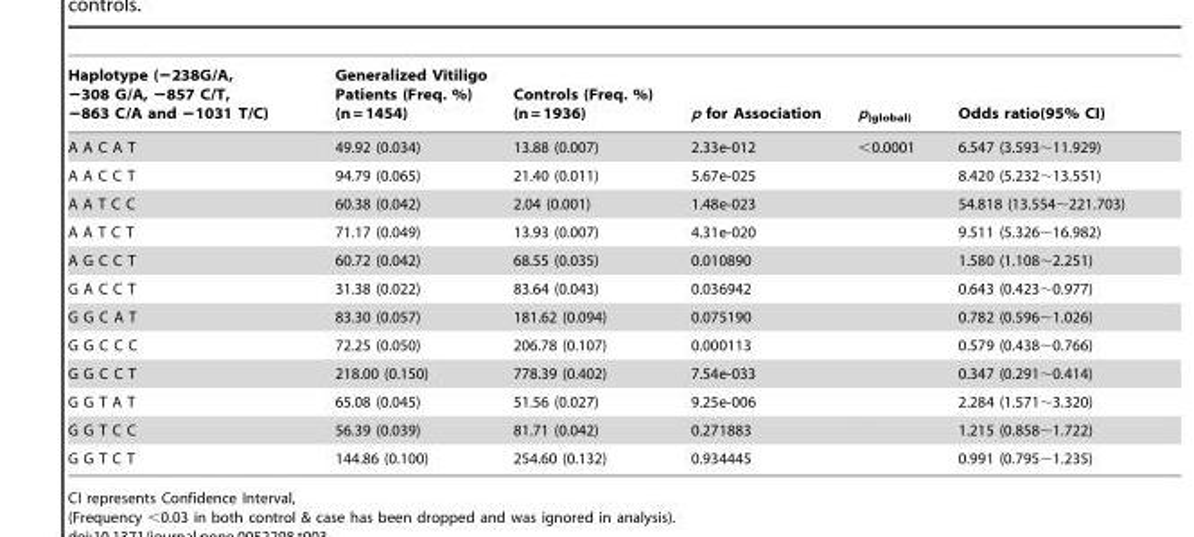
<table><thead><tr><td>Haplotype (−238G/A, −308 G/A, −857 C/T, −863 C/A and −1031 T/C)</td><td>Generalized Vitiligo Patients (Freq. %) (n = 1454)</td><td>Controls (Freq. %) (n = 1936)</td><td>p for Association</td><td>p<sub>(global)</sub></td><td>Odds ratio(95% CI)</td></tr></thead><tbody><tr><td>A A C A T</td><td>49.92 (0.034)</td><td>13.88 (0.007)</td><td>2.33e-012</td><td>&lt;0.0001</td><td>6.547 (3.593∼11.929)</td></tr><tr><td>A A C C T</td><td>94.79 (0.065)</td><td>21.40 (0.011)</td><td>5.67e-025</td><td></td><td>8.420 (5.232∼13.551)</td></tr><tr><td>A A T C C</td><td>60.38 (0.042)</td><td>2.04 (0.001)</td><td>1.48e-023</td><td></td><td>54.818 (13.554∼221.703)</td></tr><tr><td>A A T C T</td><td>71.17 (0.049)</td><td>13.93 (0.007)</td><td>4.31e-020</td><td></td><td>9.511 (5.326∼16.982)</td></tr><tr><td>A G C C T</td><td>60.72 (0.042)</td><td>68.55 (0.035)</td><td>0.010890</td><td></td><td>1.580 (1.108∼2.251)</td></tr><tr><td>G A C C T</td><td>31.38 (0.022)</td><td>83.64 (0.043)</td><td>0.036942</td><td></td><td>0.643 (0.423∼0.977)</td></tr><tr><td>G G C A T</td><td>83.30 (0.057)</td><td>181.62 (0.094)</td><td>0.075190</td><td></td><td>0.782 (0.596∼1.026)</td></tr><tr><td>G G C C C</td><td>72.25 (0.050)</td><td>206.78 (0.107)</td><td>0.000113</td><td></td><td>0.579 (0.438∼0.766)</td></tr><tr><td>G G C C T</td><td>218.00 (0.150)</td><td>778.39 (0.402)</td><td>7.54e-033</td><td></td><td>0.347 (0.291∼0.414)</td></tr><tr><td>G G T A T</td><td>65.08 (0.045)</td><td>51.56 (0.027)</td><td>9.25e-006</td><td></td><td>2.284 (1.571∼3.320)</td></tr><tr><td>G G T C C</td><td>56.39 (0.039)</td><td>81.71 (0.042)</td><td>0.271883</td><td></td><td>1.215 (0.858∼1.722)</td></tr><tr><td>G G T C T</td><td>144.86 (0.100)</td><td>254.60 (0.132)</td><td>0.934445</td><td></td><td>0.991 (0.795∼1.235)</td></tr></tbody></table>